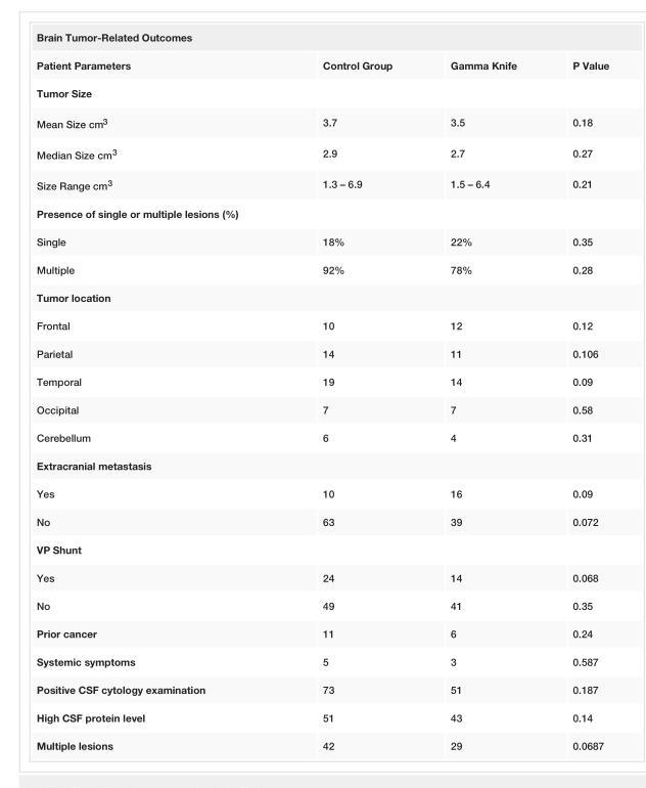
<table><tbody><tr><td colspan="4">Brain Tumor-Related Outcomes</td></tr><tr><td>Patient Parameters</td><td>Control Group</td><td>Gamma Knife</td><td>P Value</td></tr><tr><td colspan="4">Tumor Size</td></tr><tr><td>Mean Size cm<sup>3</sup></td><td>3.7</td><td>3.5</td><td>0.18</td></tr><tr><td>Median Size cm<sup>3</sup></td><td>2.9</td><td>2.7</td><td>0.27</td></tr><tr><td>Size Range cm<sup>3</sup></td><td>1.3 – 6.9</td><td>1.5 – 6.4</td><td>0.21</td></tr><tr><td colspan="4">Presence of single or multiple lesions (%)</td></tr><tr><td>Single</td><td>18%</td><td>22%</td><td>0.35</td></tr><tr><td>Multiple</td><td>92%</td><td>78%</td><td>0.28</td></tr><tr><td colspan="4">Tumor location</td></tr><tr><td>Frontal</td><td>10</td><td>12</td><td>0.12</td></tr><tr><td>Parietal</td><td>14</td><td>11</td><td>0.106</td></tr><tr><td>Temporal</td><td>19</td><td>14</td><td>0.09</td></tr><tr><td>Occipital</td><td>7</td><td>7</td><td>0.58</td></tr><tr><td>Cerebellum</td><td>6</td><td>4</td><td>0.31</td></tr><tr><td colspan="4">Extracranial metastasis</td></tr><tr><td>Yes</td><td>10</td><td>16</td><td>0.09</td></tr><tr><td>No</td><td>63</td><td>39</td><td>0.072</td></tr><tr><td colspan="4">VP Shunt</td></tr><tr><td>Yes</td><td>24</td><td>14</td><td>0.068</td></tr><tr><td>No</td><td>49</td><td>41</td><td>0.35</td></tr><tr><td>Prior cancer</td><td>11</td><td>6</td><td>0.24</td></tr><tr><td>Systemic symptoms</td><td>5</td><td>3</td><td>0.587</td></tr><tr><td>Positive CSF cytology examination</td><td>73</td><td>51</td><td>0.187</td></tr><tr><td>High CSF protein level</td><td>51</td><td>43</td><td>0.14</td></tr><tr><td>Multiple lesions</td><td>42</td><td>29</td><td>0.0687</td></tr></tbody></table>